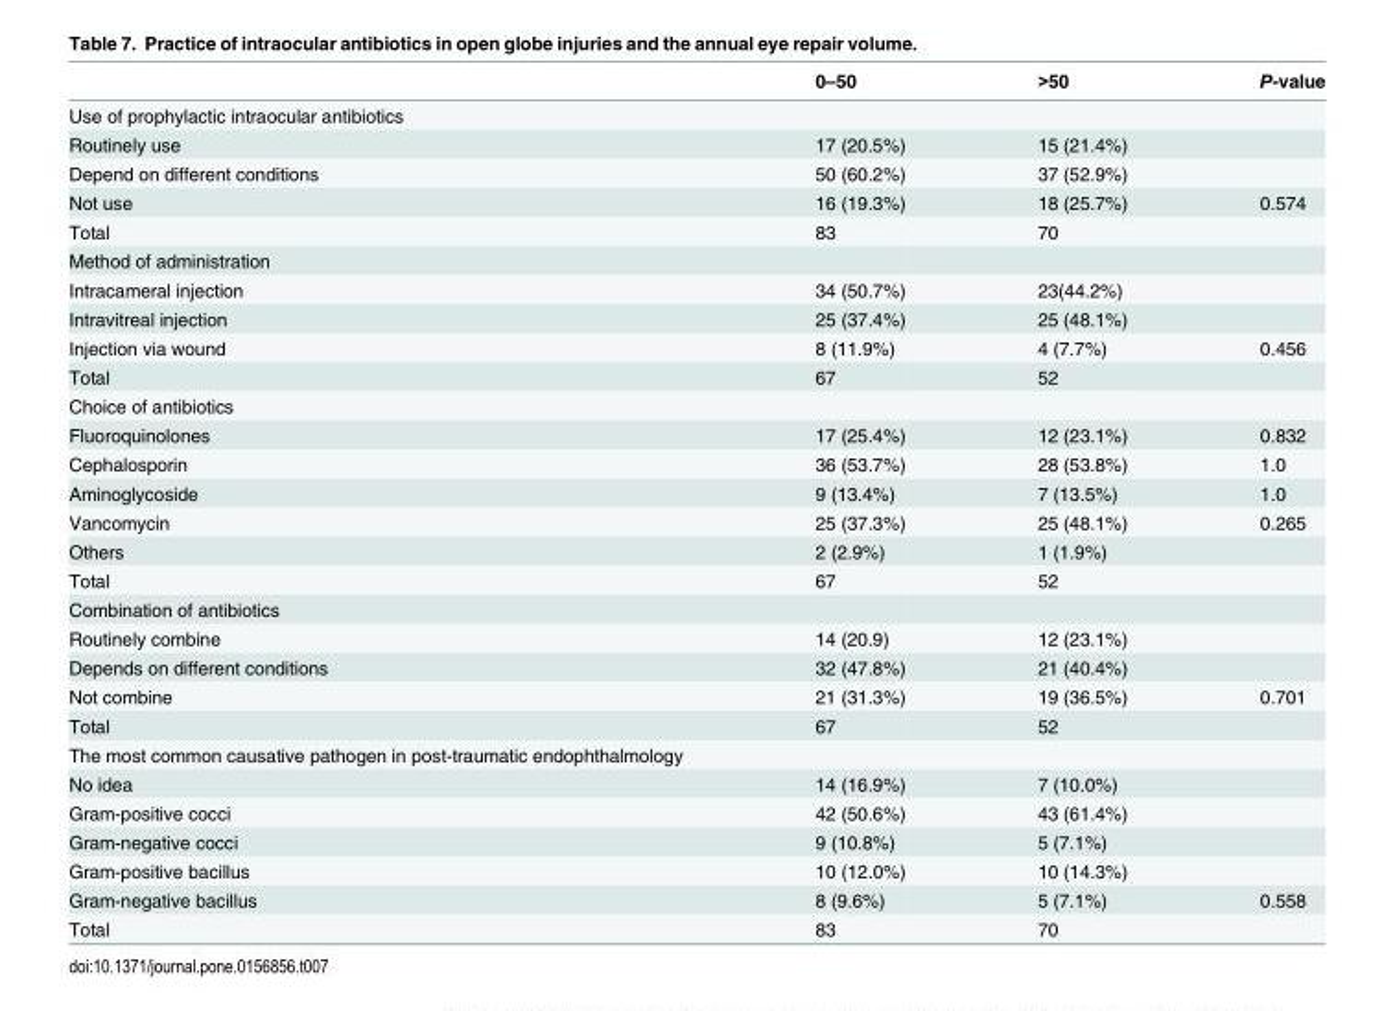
<table><thead><tr><td></td><td>0–50</td><td>&gt;50</td><td>P-value</td></tr></thead><tbody><tr><td colspan="4">Use of prophylactic intraocular antibiotics</td></tr><tr><td>Routinely use</td><td>17 (20.5%)</td><td>15 (21.4%)</td><td></td></tr><tr><td>Depend on different conditions</td><td>50 (60.2%)</td><td>37 (52.9%)</td><td></td></tr><tr><td>Not use</td><td>16 (19.3%)</td><td>18 (25.7%)</td><td>0.574</td></tr><tr><td>Total</td><td>83</td><td>70</td><td></td></tr><tr><td colspan="4">Method of administration</td></tr><tr><td>Intracameral injection</td><td>34 (50.7%)</td><td>23(44.2%)</td><td></td></tr><tr><td>Intravitreal injection</td><td>25 (37.4%)</td><td>25 (48.1%)</td><td></td></tr><tr><td>Injection via wound</td><td>8 (11.9%)</td><td>4 (7.7%)</td><td>0.456</td></tr><tr><td>Total</td><td>67</td><td>52</td><td></td></tr><tr><td colspan="4">Choice of antibiotics</td></tr><tr><td>Fluoroquinolones</td><td>17 (25.4%)</td><td>12 (23.1%)</td><td>0.832</td></tr><tr><td>Cephalosporin</td><td>36 (53.7%)</td><td>28 (53.8%)</td><td>1.0</td></tr><tr><td>Aminoglycoside</td><td>9 (13.4%)</td><td>7 (13.5%)</td><td>1.0</td></tr><tr><td>Vancomycin</td><td>25 (37.3%)</td><td>25 (48.1%)</td><td>0.265</td></tr><tr><td>Others</td><td>2 (2.9%)</td><td>1 (1.9%)</td><td></td></tr><tr><td>Total</td><td>67</td><td>52</td><td></td></tr><tr><td colspan="4">Combination of antibiotics</td></tr><tr><td>Routinely combine</td><td>14 (20.9)</td><td>12 (23.1%)</td><td></td></tr><tr><td>Depends on different conditions</td><td>32 (47.8%)</td><td>21 (40.4%)</td><td></td></tr><tr><td>Not combine</td><td>21 (31.3%)</td><td>19 (36.5%)</td><td>0.701</td></tr><tr><td>Total</td><td>67</td><td>52</td><td></td></tr><tr><td colspan="4">The most common causative pathogen in post-traumatic endophthalmology</td></tr><tr><td>No idea</td><td>14 (16.9%)</td><td>7 (10.0%)</td><td></td></tr><tr><td>Gram-positive cocci</td><td>42 (50.6%)</td><td>43 (61.4%)</td><td></td></tr><tr><td>Gram-negative cocci</td><td>9 (10.8%)</td><td>5 (7.1%)</td><td></td></tr><tr><td>Gram-positive bacillus</td><td>10 (12.0%)</td><td>10 (14.3%)</td><td></td></tr><tr><td>Gram-negative bacillus</td><td>8 (9.6%)</td><td>5 (7.1%)</td><td>0.558</td></tr><tr><td>Total</td><td>83</td><td>70</td><td></td></tr></tbody></table>